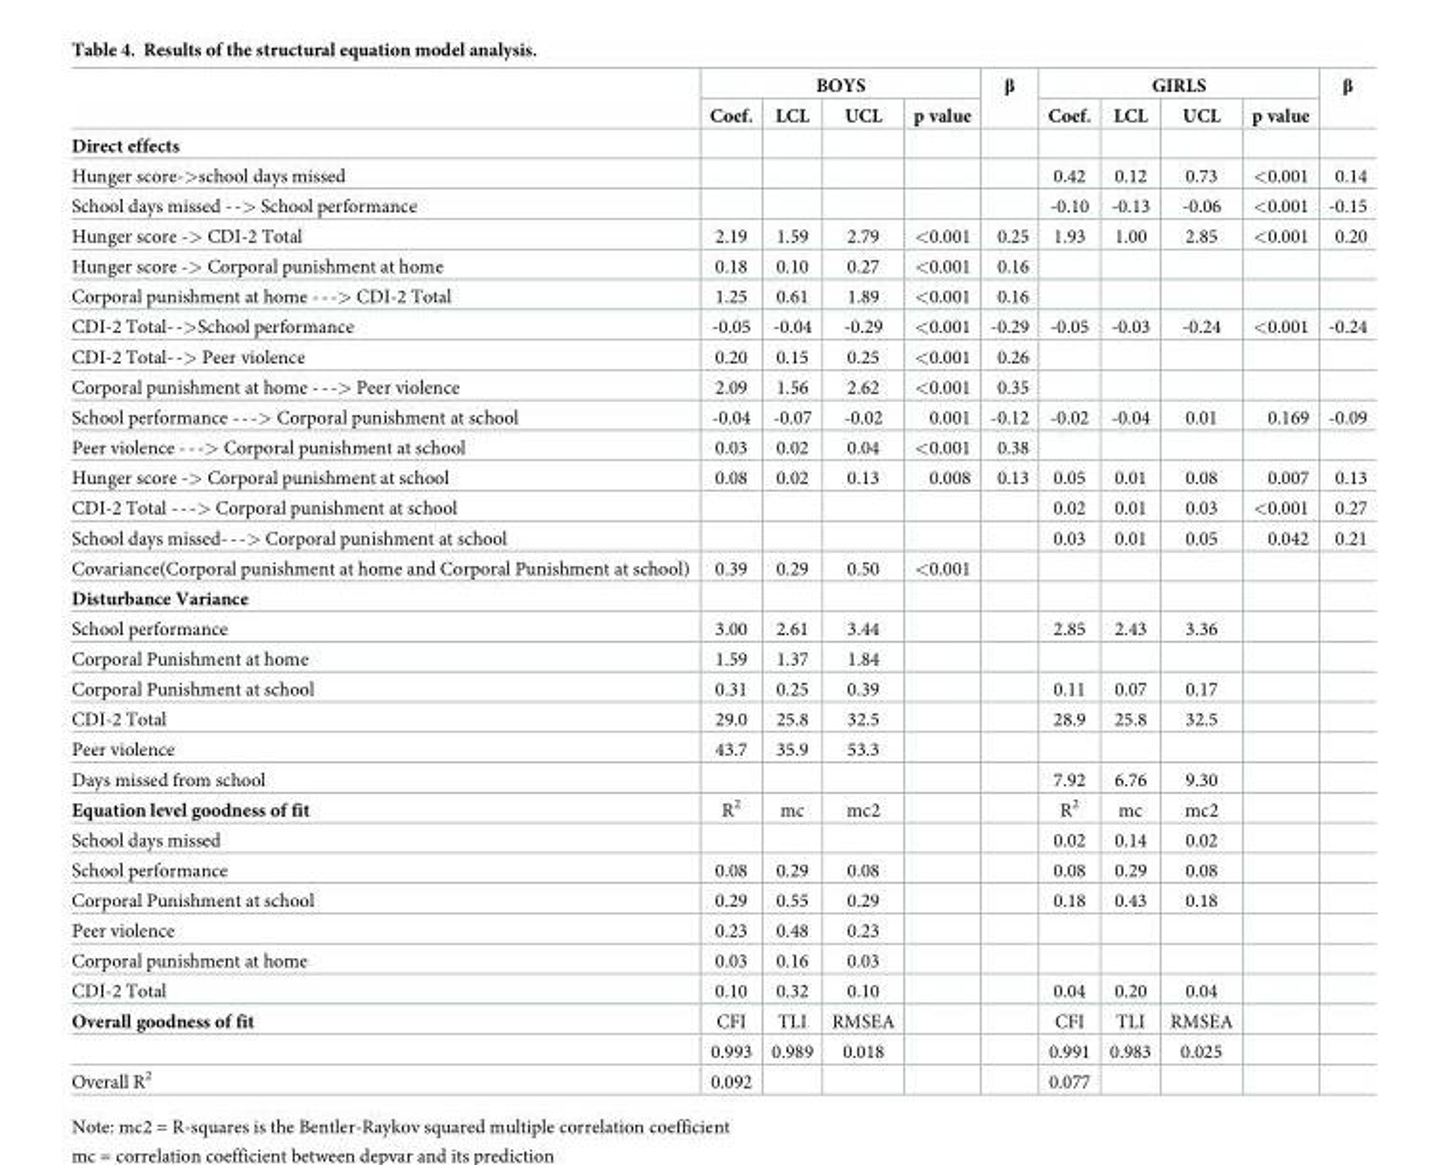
<table><thead><tr><td rowspan="2"></td><td colspan="4">BOYS</td><td rowspan="2">β</td><td colspan="4">GIRLS</td><td rowspan="2">β</td></tr><tr><td>Coef.</td><td>LCL</td><td>UCL</td><td>p value</td><td>Coef.</td><td>LCL</td><td>UCL</td><td>p value</td></tr></thead><tbody><tr><td colspan="11">Direct effects</td></tr><tr><td>Hunger score-&gt;school days missed</td><td></td><td></td><td></td><td></td><td></td><td>0.42</td><td>0.12</td><td>0.73</td><td>&lt;0.001</td><td>0.14</td></tr><tr><td>School days missed --&gt; School performance</td><td></td><td></td><td></td><td></td><td></td><td>-0.10</td><td>-0.13</td><td>-0.06</td><td>&lt;0.001</td><td>-0.15</td></tr><tr><td>Hunger score -&gt; CDI-2 Total</td><td>2.19</td><td>1.59</td><td>2.79</td><td>&lt;0.001</td><td>0.25</td><td>1.93</td><td>1.00</td><td>2.85</td><td>&lt;0.001</td><td>0.20</td></tr><tr><td>Hunger score -&gt; Corporal punishment at home</td><td>0.18</td><td>0.10</td><td>0.27</td><td>&lt;0.001</td><td>0.16</td><td></td><td></td><td></td><td></td><td></td></tr><tr><td>Corporal punishment at home ---&gt; CDI-2 Total</td><td>1.25</td><td>0.61</td><td>1.89</td><td>&lt;0.001</td><td>0.16</td><td></td><td></td><td></td><td></td><td></td></tr><tr><td>CDI-2 Total--&gt;School performance</td><td>-0.05</td><td>-0.04</td><td>-0.29</td><td>&lt;0.001</td><td>-0.29</td><td>-0.05</td><td>-0.03</td><td>-0.24</td><td>&lt;0.001</td><td>-0.24</td></tr><tr><td>CDI-2 Total--&gt; Peer violence</td><td>0.20</td><td>0.15</td><td>0.25</td><td>&lt;0.001</td><td>0.26</td><td></td><td></td><td></td><td></td><td></td></tr><tr><td>Corporal punishment at home ---&gt; Peer violence</td><td>2.09</td><td>1.56</td><td>2.62</td><td>&lt;0.001</td><td>0.35</td><td></td><td></td><td></td><td></td><td></td></tr><tr><td>School performance ---&gt; Corporal punishment at school</td><td>-0.04</td><td>-0.07</td><td>-0.02</td><td>0.001</td><td>-0.12</td><td>-0.02</td><td>-0.04</td><td>0.01</td><td>0.169</td><td>-0.09</td></tr><tr><td>Peer violence ---&gt; Corporal punishment at school</td><td>0.03</td><td>0.02</td><td>0.04</td><td>&lt;0.001</td><td>0.38</td><td></td><td></td><td></td><td></td><td></td></tr><tr><td>Hunger score -&gt; Corporal punishment at school</td><td>0.08</td><td>0.02</td><td>0.13</td><td>0.008</td><td>0.13</td><td>0.05</td><td>0.01</td><td>0.08</td><td>0.007</td><td>0.13</td></tr><tr><td>CDI-2 Total ---&gt; Corporal punishment at school</td><td></td><td></td><td></td><td></td><td></td><td>0.02</td><td>0.01</td><td>0.03</td><td>&lt;0.001</td><td>0.27</td></tr><tr><td>School days missed---&gt; Corporal punishment at school</td><td></td><td></td><td></td><td></td><td></td><td>0.03</td><td>0.01</td><td>0.05</td><td>0.042</td><td>0.21</td></tr><tr><td>Covariance(Corporal punishment at home and Corporal Punishment at school)</td><td>0.39</td><td>0.29</td><td>0.50</td><td>&lt;0.001</td><td></td><td></td><td></td><td></td><td></td><td></td></tr><tr><td colspan="11">Disturbance Variance</td></tr><tr><td>School performance</td><td>3.00</td><td>2.61</td><td>3.44</td><td></td><td></td><td>2.85</td><td>2.43</td><td>3.36</td><td></td><td></td></tr><tr><td>Corporal Punishment at home</td><td>1.59</td><td>1.37</td><td>1.84</td><td></td><td></td><td></td><td></td><td></td><td></td><td></td></tr><tr><td>Corporal Punishment at school</td><td>0.31</td><td>0.25</td><td>0.39</td><td></td><td></td><td>0.11</td><td>0.07</td><td>0.17</td><td></td><td></td></tr><tr><td>CDI-2 Total</td><td>29.0</td><td>25.8</td><td>32.5</td><td></td><td></td><td>28.9</td><td>25.8</td><td>32.5</td><td></td><td></td></tr><tr><td>Peer violence</td><td>43.7</td><td>35.9</td><td>53.3</td><td></td><td></td><td></td><td></td><td></td><td></td><td></td></tr><tr><td>Days missed from school</td><td></td><td></td><td></td><td></td><td></td><td>7.92</td><td>6.76</td><td>9.30</td><td></td><td></td></tr><tr><td>Equation level goodness of fit</td><td>R<sup>2</sup></td><td>mc</td><td>mc2</td><td></td><td></td><td>R<sup>2</sup></td><td>mc</td><td>mc2</td><td></td><td></td></tr><tr><td>School days missed</td><td></td><td></td><td></td><td></td><td></td><td>0.02</td><td>0.14</td><td>0.02</td><td></td><td></td></tr><tr><td>School performance</td><td>0.08</td><td>0.29</td><td>0.08</td><td></td><td></td><td>0.08</td><td>0.29</td><td>0.08</td><td></td><td></td></tr><tr><td>Corporal Punishment at school</td><td>0.29</td><td>0.55</td><td>0.29</td><td></td><td></td><td>0.18</td><td>0.43</td><td>0.18</td><td></td><td></td></tr><tr><td>Peer violence</td><td>0.23</td><td>0.48</td><td>0.23</td><td></td><td></td><td></td><td></td><td></td><td></td><td></td></tr><tr><td>Corporal punishment at home</td><td>0.03</td><td>0.16</td><td>0.03</td><td></td><td></td><td></td><td></td><td></td><td></td><td></td></tr><tr><td>CDI-2 Total</td><td>0.10</td><td>0.32</td><td>0.10</td><td></td><td></td><td>0.04</td><td>0.20</td><td>0.04</td><td></td><td></td></tr><tr><td rowspan="2">Overall goodness of fit</td><td>CFI</td><td>TLI</td><td>RMSEA</td><td></td><td></td><td>CFI</td><td>TLI</td><td>RMSEA</td><td></td><td></td></tr><tr><td>0.993</td><td>0.989</td><td>0.018</td><td></td><td></td><td>0.991</td><td>0.983</td><td>0.025</td><td></td><td></td></tr><tr><td>Overall R<sup>2</sup></td><td>0.092</td><td></td><td></td><td></td><td></td><td>0.077</td><td></td><td></td><td></td><td></td></tr></tbody></table>